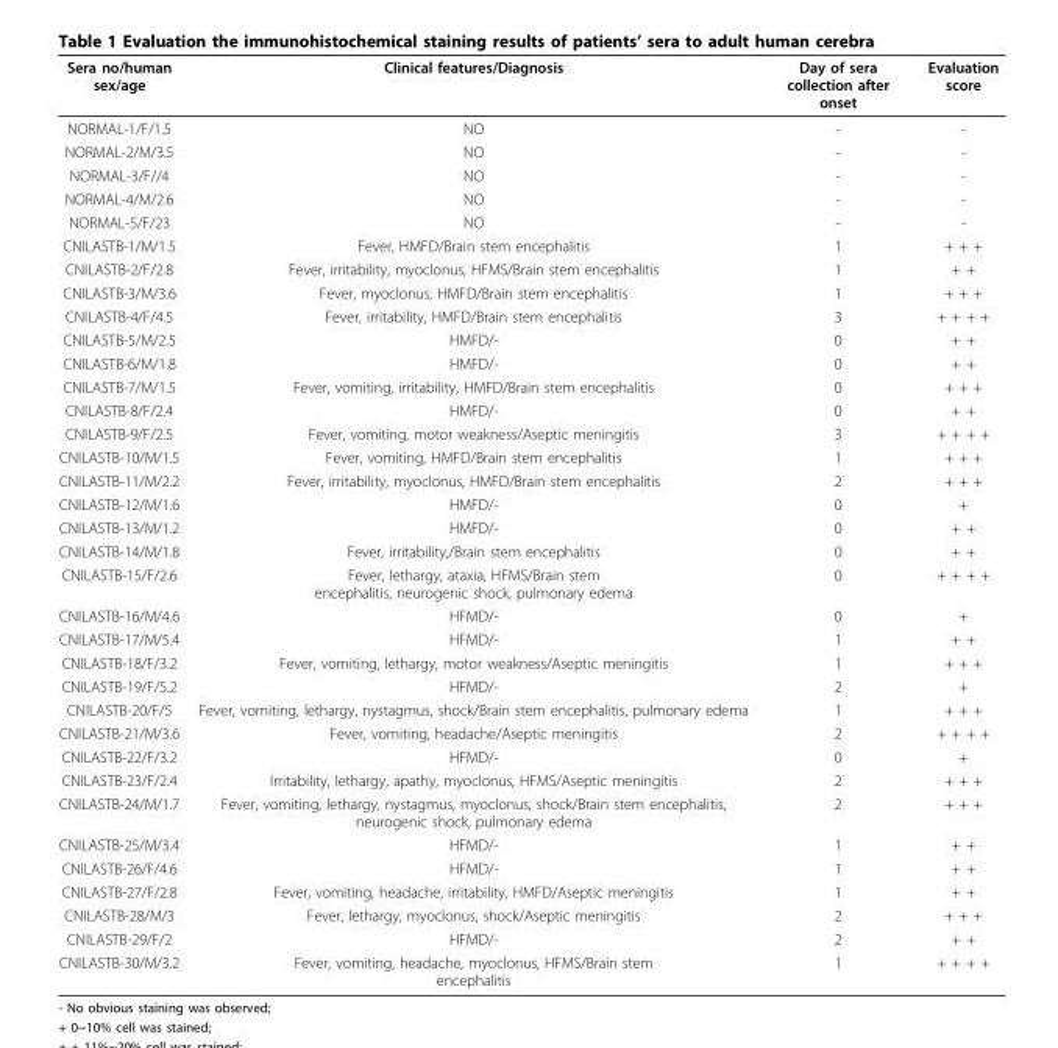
<table><thead><tr><td>Sera no/human sex/age</td><td>Clinical features/Diagnosis</td><td>Day of sera collection after onset</td><td>Evaluation score</td></tr></thead><tbody><tr><td>NORMAL-1/F/1.5</td><td>NO</td><td>-</td><td>-</td></tr><tr><td>NORMAL-2/M/3.5</td><td>NO</td><td>-</td><td>-</td></tr><tr><td>NORMAL-3/F//4</td><td>NO</td><td>-</td><td>-</td></tr><tr><td>NORMAL-4/M/2.6</td><td>NO</td><td>-</td><td>-</td></tr><tr><td>NORMAL-5/F/23</td><td>NO</td><td>-</td><td>-</td></tr><tr><td>CNILASTB-1/M/1.5</td><td>Fever, HMFD/Brain stem encephalitis</td><td>1</td><td>+ + +</td></tr><tr><td>CNILASTB-2/F/2.8</td><td>Fever, irritability, myoclonus, HFMS/Brain stem encephalitis</td><td>1</td><td>+ +</td></tr><tr><td>CNILASTB-3/M/3.6</td><td>Fever, myoclonus, HMFD/Brain stem encephalitis</td><td>1</td><td>+ + +</td></tr><tr><td>CNILASTB-4/F/4.5</td><td>Fever, irritability, HMFD/Brain stem encephalitis</td><td>3</td><td>+ + + +</td></tr><tr><td>CNILASTB-5/M/2.5</td><td>HMFD/-</td><td>0</td><td>+ +</td></tr><tr><td>CNILASTB-6/M/1.8</td><td>HMFD/-</td><td>0</td><td>+ +</td></tr><tr><td>CNILASTB-7/M/1.5</td><td>Fever, vomiting, irritability, HMFD/Brain stem encephalitis</td><td>0</td><td>+ + +</td></tr><tr><td>CNILASTB-8/F/2.4</td><td>HMFD/-</td><td>0</td><td>+ +</td></tr><tr><td>CNILASTB-9/F/2.5</td><td>Fever, vomiting, motor weakness/Aseptic meningitis</td><td>3</td><td>+ + + +</td></tr><tr><td>CNILASTB-10/M/1.5</td><td>Fever, vomiting, HMFD/Brain stem encephalitis</td><td>1</td><td>+ + +</td></tr><tr><td>CNILASTB-11/M/2.2</td><td>Fever, irritability, myoclonus, HMFD/Brain stem encephalitis</td><td>2</td><td>+ + +</td></tr><tr><td>CNILASTB-12/M/1.6</td><td>HMFD/-</td><td>0</td><td>+</td></tr><tr><td>CNILASTB-13/M/1.2</td><td>HMFD/-</td><td>0</td><td>+ +</td></tr><tr><td>CNILASTB-14/M/1.8</td><td>Fever, irritability,/Brain stem encephalitis</td><td>0</td><td>+ +</td></tr><tr><td>CNILASTB-15/F/2.6</td><td>Fever, lethargy, ataxia, HFMS/Brain stem encephalitis, neurogenic shock, pulmonary edema</td><td>0</td><td>+ + + +</td></tr><tr><td>CNILASTB-16/M/4.6</td><td>HFMD/-</td><td>0</td><td>+</td></tr><tr><td>CNILASTB-17/M/5.4</td><td>HFMD/-</td><td>1</td><td>+ +</td></tr><tr><td>CNILASTB-18/F/3.2</td><td>Fever, vomiting, lethargy, motor weakness/Aseptic meningitis</td><td>1</td><td>+ + +</td></tr><tr><td>CNILASTB-19/F/5.2</td><td>HFMD/-</td><td>2</td><td>+</td></tr><tr><td>CNILASTB-20/F/5</td><td>Fever, vomiting, lethargy, nystagmus, shock/Brain stem encephalitis, pulmonary edema</td><td>1</td><td>+ + +</td></tr><tr><td>CNILASTB-21/M/3.6</td><td>Fever, vomiting, headache/Aseptic meningitis</td><td>2</td><td>+ + + +</td></tr><tr><td>CNILASTB-22/F/3.2</td><td>HFMD/-</td><td>0</td><td>+</td></tr><tr><td>CNILASTB-23/F/2.4</td><td>Irritability, lethargy, apathy, myoclonus, HFMS/Aseptic meningitis</td><td>2</td><td>+ + +</td></tr><tr><td>CNILASTB-24/M/1.7</td><td>Fever, vomiting, lethargy, nystagmus, myoclonus, shock/Brain stem encephalitis, neurogenic shock, pulmonary edema</td><td>2</td><td>+ + +</td></tr><tr><td>CNILASTB-25/M/3.4</td><td>HFMD/-</td><td>1</td><td>+ +</td></tr><tr><td>CNILASTB-26/F/4.6</td><td>HFMD/-</td><td>1</td><td>+ +</td></tr><tr><td>CNILASTB-27/F/2.8</td><td>Fever, vomiting, headache, irritability, HMFD/Aseptic meningitis</td><td>1</td><td>+ +</td></tr><tr><td>CNILASTB-28/M/3</td><td>Fever, lethargy, myoclonus, shock/Aseptic meningitis</td><td>2</td><td>+ + +</td></tr><tr><td>CNILASTB-29/F/2</td><td>HFMD/-</td><td>2</td><td>+ +</td></tr><tr><td>CNILASTB-30/M/3.2</td><td>Fever, vomiting, headache, myoclonus, HFMS/Brain stem encephalitis</td><td>1</td><td>+ + + +</td></tr></tbody></table>